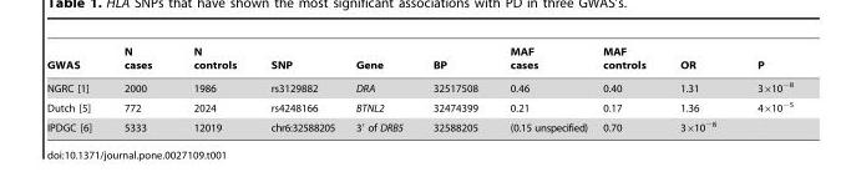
<table><thead><tr><td>GWAS</td><td>N cases</td><td>N controls</td><td>SNP</td><td>Gene</td><td>BP</td><td>MAF cases</td><td>MAF controls</td><td>OR</td><td>P</td></tr></thead><tbody><tr><td>NGRC [1]</td><td>2000</td><td>1986</td><td>rs3129882</td><td>DRA</td><td>32517508</td><td>0.46</td><td>0.40</td><td>1.31</td><td>3×10<sup>−8</sup></td></tr><tr><td>Dutch [5]</td><td>772</td><td>2024</td><td>rs4248166</td><td>BTNL2</td><td>32474399</td><td>0.21</td><td>0.17</td><td>1.36</td><td>4×10<sup>−5</sup></td></tr><tr><td>IPDGC [6]</td><td>5333</td><td>12019</td><td>chr6:32588205</td><td>3′ of DRB5</td><td>32588205</td><td>(0.15 unspecified)</td><td>0.70</td><td>3×10<sup>−8</sup></td><td></td></tr></tbody></table>